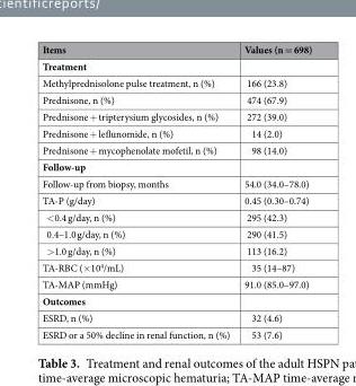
<table><thead><tr><td>Items</td><td>Values (n = 698)</td></tr></thead><tbody><tr><td colspan="2">Treatment</td></tr><tr><td>Methylprednisolone pulse treatment, n (%)</td><td>166 (23.8)</td></tr><tr><td>Prednisone, n (%)</td><td>474 (67.9)</td></tr><tr><td>Prednisone + tripterysium glycosides, n (%)</td><td>272 (39.0)</td></tr><tr><td>Prednisone + leflunomide, n (%)</td><td>14 (2.0)</td></tr><tr><td>Prednisone + mycophenolate mofetil, n (%)</td><td>98 (14.0)</td></tr><tr><td colspan="2">Follow-up</td></tr><tr><td>Follow-up from biopsy, months</td><td>54.0 (34.0–78.0)</td></tr><tr><td>TA-P (g/day)</td><td>0.45 (0.30–0.74)</td></tr><tr><td>&lt;0.4 g/day, n (%)</td><td>295 (42.3)</td></tr><tr><td>0.4–1.0 g/day, n (%)</td><td>290 (41.5)</td></tr><tr><td>&gt;1.0 g/day, n (%)</td><td>113 (16.2)</td></tr><tr><td>TA-RBC (×10<sup>4</sup>/mL)</td><td>35 (14–87)</td></tr><tr><td>TA-MAP (mmHg)</td><td>91.0 (85.0–97.0)</td></tr><tr><td colspan="2">Outcomes</td></tr><tr><td>ESRD, n (%)</td><td>32 (4.6)</td></tr><tr><td>ESRD or a 50% decline in renal function, n (%)</td><td>53 (7.6)</td></tr></tbody></table>